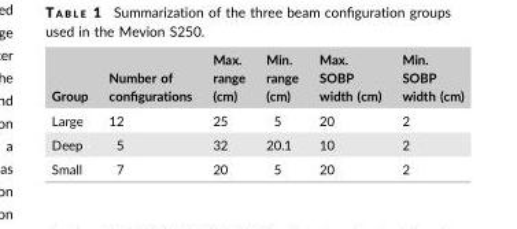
<table><thead><tr><td>Group</td><td>Number of configurations</td><td>Max. range (cm)</td><td>Min. range (cm)</td><td>Max. SOBP width (cm)</td><td>Min. SOBP width (cm)</td></tr></thead><tbody><tr><td>Large</td><td>12</td><td>25</td><td>5</td><td>20</td><td>2</td></tr><tr><td>Deep</td><td>5</td><td>32</td><td>20.1</td><td>10</td><td>2</td></tr><tr><td>Small</td><td>7</td><td>20</td><td>5</td><td>20</td><td>2</td></tr></tbody></table>